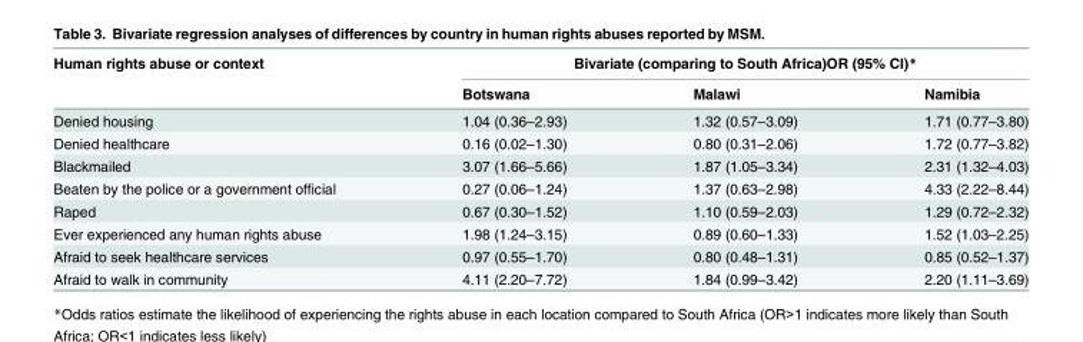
<table><thead><tr><td rowspan="2">Human rights abuse or context</td><td colspan="3">Bivariate (comparing to South Africa)OR (95% CI)*</td></tr><tr><td>Botswana</td><td>Malawi</td><td>Namibia</td></tr></thead><tbody><tr><td>Denied housing</td><td>1.04 (0.36–2.93)</td><td>1.32 (0.57–3.09)</td><td>1.71 (0.77–3.80)</td></tr><tr><td>Denied healthcare</td><td>0.16 (0.02–1.30)</td><td>0.80 (0.31–2.06)</td><td>1.72 (0.77–3.82)</td></tr><tr><td>Blackmailed</td><td>3.07 (1.66–5.66)</td><td>1.87 (1.05–3.34)</td><td>2.31 (1.32–4.03)</td></tr><tr><td>Beaten by the police or a government official</td><td>0.27 (0.06–1.24)</td><td>1.37 (0.63–2.98)</td><td>4.33 (2.22–8.44)</td></tr><tr><td>Raped</td><td>0.67 (0.30–1.52)</td><td>1.10 (0.59–2.03)</td><td>1.29 (0.72–2.32)</td></tr><tr><td>Ever experienced any human rights abuse</td><td>1.98 (1.24–3.15)</td><td>0.89 (0.60–1.33)</td><td>1.52 (1.03–2.25)</td></tr><tr><td>Afraid to seek healthcare services</td><td>0.97 (0.55–1.70)</td><td>0.80 (0.48–1.31)</td><td>0.85 (0.52–1.37)</td></tr><tr><td>Afraid to walk in community</td><td>4.11 (2.20–7.72)</td><td>1.84 (0.99–3.42)</td><td>2.20 (1.11–3.69)</td></tr></tbody></table>